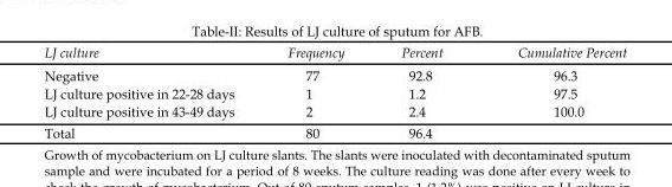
<table><thead><tr><td>LJ culture</td><td>Frequency</td><td>Percent</td><td>Cumulative Percent</td></tr></thead><tbody><tr><td>Negative</td><td>77</td><td>92.8</td><td>96.3</td></tr><tr><td>LJ culture positive in 22-28 days</td><td>1</td><td>1.2</td><td>97.5</td></tr><tr><td>LJ culture positive in 43-49 days</td><td>2</td><td>2.4</td><td>100.0</td></tr><tr><td>Total</td><td>80</td><td>96.4</td><td></td></tr></tbody></table>